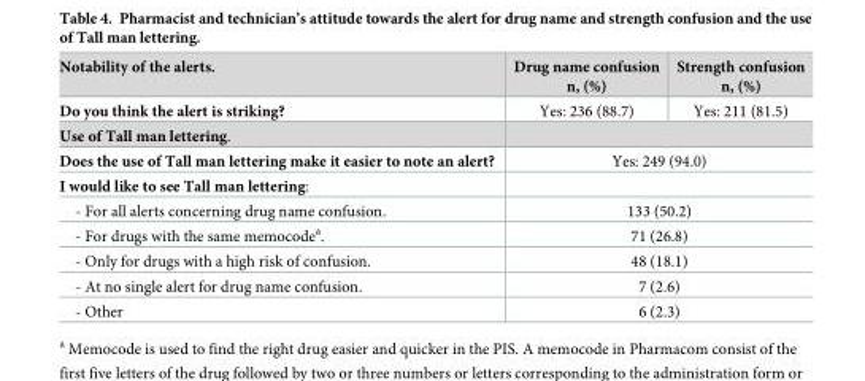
<table><thead><tr><td>Notability of the alerts.</td><td>Drug name confusion n, (%)</td><td>Strength confusion n, (%)</td></tr></thead><tbody><tr><td>Do you think the alert is striking?</td><td>Yes: 236 (88.7)</td><td>Yes: 211 (81.5)</td></tr><tr><td colspan="3">Use of Tall man lettering.</td></tr><tr><td>Does the use of Tall man lettering make it easier to note an alert?</td><td colspan="2">Yes: 249 (94.0)</td></tr><tr><td colspan="3">I would like to see Tall man lettering:</td></tr><tr><td>- For all alerts concerning drug name confusion.</td><td colspan="2">133 (50.2)</td></tr><tr><td>- For drugs with the same memocode<sup>a</sup>.</td><td colspan="2">71 (26.8)</td></tr><tr><td>- Only for drugs with a high risk of confusion.</td><td colspan="2">48 (18.1)</td></tr><tr><td>- At no single alert for drug name confusion.</td><td colspan="2">7 (2.6)</td></tr><tr><td>- Other</td><td colspan="2">6 (2.3)</td></tr></tbody></table>